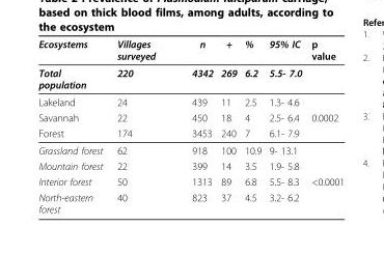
<table><thead><tr><td>Ecosystems</td><td>Villages surveyed</td><td>n</td><td>+</td><td>%</td><td>95% IC</td><td>p value</td></tr></thead><tbody><tr><td>Total population</td><td>220</td><td>4342</td><td>269</td><td>6.2</td><td>5.5- 7.0</td><td></td></tr><tr><td>Lakeland</td><td>24</td><td>439</td><td>11</td><td>2.5</td><td>1.3- 4.6</td><td></td></tr><tr><td>Savannah</td><td>22</td><td>450</td><td>18</td><td>4</td><td>2.5- 6.4</td><td>0.0002</td></tr><tr><td>Forest</td><td>174</td><td>3453</td><td>240</td><td>7</td><td>6.1- 7.9</td><td></td></tr><tr><td>Grassland forest</td><td>62</td><td>918</td><td>100</td><td>10.9</td><td>9- 13.1</td><td></td></tr><tr><td>Mountain forest</td><td>22</td><td>399</td><td>14</td><td>3.5</td><td>1.9- 5.8</td><td></td></tr><tr><td>Interior forest</td><td>50</td><td>1313</td><td>89</td><td>6.8</td><td>5.5- 8.3</td><td>&lt;0.0001</td></tr><tr><td>North-eastern forest</td><td>40</td><td>823</td><td>37</td><td>4.5</td><td>3.2- 6.2</td><td></td></tr></tbody></table>